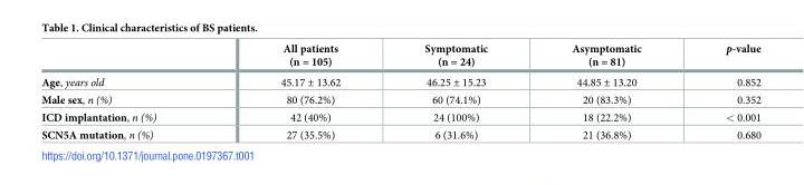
<table><thead><tr><td></td><td>All patients (n = 105)</td><td>Symptomatic (n = 24)</td><td>Asymptomatic (n = 81)</td><td>p-value</td></tr></thead><tbody><tr><td>Age, years old</td><td>45.17 ± 13.62</td><td>46.25 ± 15.23</td><td>44.85 ± 13.20</td><td>0.852</td></tr><tr><td>Male sex, n (%)</td><td>80 (76.2%)</td><td>60 (74.1%)</td><td>20 (83.3%)</td><td>0.352</td></tr><tr><td>ICD implantation, n (%)</td><td>42 (40%)</td><td>24 (100%)</td><td>18 (22.2%)</td><td>&lt; 0.001</td></tr><tr><td>SCN5A mutation, n (%)</td><td>27 (35.5%)</td><td>6 (31.6%)</td><td>21 (36.8%)</td><td>0.680</td></tr></tbody></table>